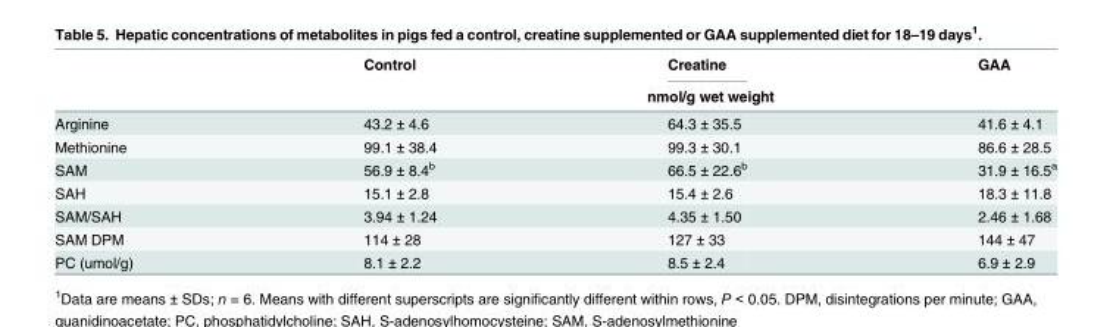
<table><thead><tr><td rowspan="2"></td><td>Control</td><td>Creatine</td><td>GAA</td></tr><tr><td colspan="3">nmol/g wet weight</td></tr></thead><tbody><tr><td>Arginine</td><td>43.2 ± 4.6</td><td>64.3 ± 35.5</td><td>41.6 ± 4.1</td></tr><tr><td>Methionine</td><td>99.1 ± 38.4</td><td>99.3 ± 30.1</td><td>86.6 ± 28.5</td></tr><tr><td>SAM</td><td>56.9 ± 8.4<sup>b</sup></td><td>66.5 ± 22.6<sup>b</sup></td><td>31.9 ± 16.5<sup>a</sup></td></tr><tr><td>SAH</td><td>15.1 ± 2.8</td><td>15.4 ± 2.6</td><td>18.3 ± 11.8</td></tr><tr><td>SAM/SAH</td><td>3.94 ± 1.24</td><td>4.35 ± 1.50</td><td>2.46 ± 1.68</td></tr><tr><td>SAM DPM</td><td>114 ± 28</td><td>127 ± 33</td><td>144 ± 47</td></tr><tr><td>PC (umol/g)</td><td>8.1 ± 2.2</td><td>8.5 ± 2.4</td><td>6.9 ± 2.9</td></tr></tbody></table>